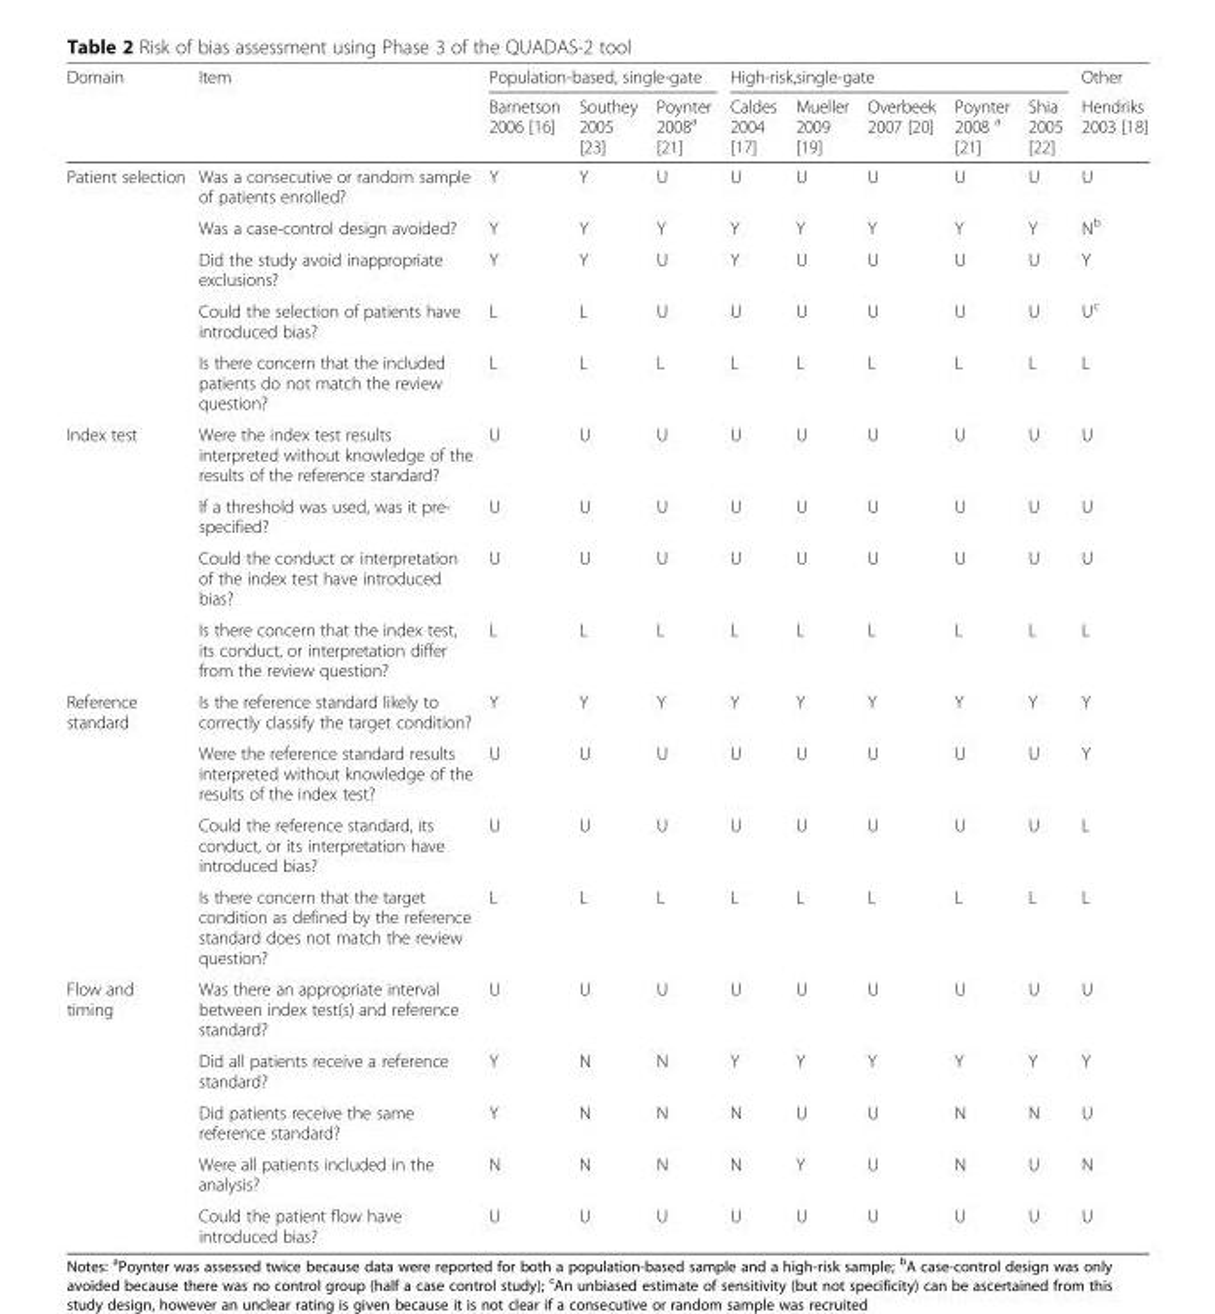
<table><thead><tr><td rowspan="2">Domain</td><td rowspan="2">Item</td><td colspan="3">Population-based, single-gate</td><td colspan="5">High-risk,single-gate</td><td rowspan="2">Other Hendriks 2003 [18]</td></tr><tr><td>Barnetson 2006 [16]</td><td>Southey 2005 [23]</td><td>Poynter 2008<sup>a</sup> [21]</td><td>Caldes 2004 [17]</td><td>Mueller 2009 [19]</td><td>Overbeek 2007 [20]</td><td>Poynter 2008 <sup>a</sup> [21]</td><td>Shia 2005 [22]</td></tr></thead><tbody><tr><td rowspan="5">Patient selection</td><td>Was a consecutive or random sample of patients enrolled?</td><td>Y</td><td>Y</td><td>U</td><td>U</td><td>U</td><td>U</td><td>U</td><td>U</td><td>U</td></tr><tr><td>Was a case-control design avoided?</td><td>Y</td><td>Y</td><td>Y</td><td>Y</td><td>Y</td><td>Y</td><td>Y</td><td>Y</td><td>N<sup>b</sup></td></tr><tr><td>Did the study avoid inappropriate exclusions?</td><td>Y</td><td>Y</td><td>U</td><td>Y</td><td>U</td><td>U</td><td>U</td><td>U</td><td>Y</td></tr><tr><td>Could the selection of patients have introduced bias?</td><td>L</td><td>L</td><td>U</td><td>U</td><td>U</td><td>U</td><td>U</td><td>U</td><td>U<sup>c</sup></td></tr><tr><td>Is there concern that the included patients do not match the review question?</td><td>L</td><td>L</td><td>L</td><td>L</td><td>L</td><td>L</td><td>L</td><td>L</td><td>L</td></tr><tr><td rowspan="4">Index test</td><td>Were the index test results interpreted without knowledge of the results of the reference standard?</td><td>U</td><td>U</td><td>U</td><td>U</td><td>U</td><td>U</td><td>U</td><td>U</td><td>U</td></tr><tr><td>If a threshold was used, was it pre- specified?</td><td>U</td><td>U</td><td>U</td><td>U</td><td>U</td><td>U</td><td>U</td><td>U</td><td>U</td></tr><tr><td>Could the conduct or interpretation of the index test have introduced bias?</td><td>U</td><td>U</td><td>U</td><td>U</td><td>U</td><td>U</td><td>U</td><td>U</td><td>U</td></tr><tr><td>Is there concern that the index test, its conduct, or interpretation differ from the review question?</td><td>L</td><td>L</td><td>L</td><td>L</td><td>L</td><td>L</td><td>L</td><td>L</td><td>L</td></tr><tr><td rowspan="4">Reference standard</td><td>Is the reference standard likely to correctly classify the target condition?</td><td>Y</td><td>Y</td><td>Y</td><td>Y</td><td>Y</td><td>Y</td><td>Y</td><td>Y</td><td>Y</td></tr><tr><td>Were the reference standard results interpreted without knowledge of the results of the index test?</td><td>U</td><td>U</td><td>U</td><td>U</td><td>U</td><td>U</td><td>U</td><td>U</td><td>Y</td></tr><tr><td>Could the reference standard, its conduct, or its interpretation have introduced bias?</td><td>U</td><td>U</td><td>U</td><td>U</td><td>U</td><td>U</td><td>U</td><td>U</td><td>L</td></tr><tr><td>Is there concern that the target condition as defined by the reference standard does not match the review question?</td><td>L</td><td>L</td><td>L</td><td>L</td><td>L</td><td>L</td><td>L</td><td>L</td><td>L</td></tr><tr><td rowspan="5">Flow and timing</td><td>Was there an appropriate interval between index test(s) and reference standard?</td><td>U</td><td>U</td><td>U</td><td>U</td><td>U</td><td>U</td><td>U</td><td>U</td><td>U</td></tr><tr><td>Did all patients receive a reference standard?</td><td>Y</td><td>N</td><td>N</td><td>Y</td><td>Y</td><td>Y</td><td>Y</td><td>Y</td><td>Y</td></tr><tr><td>Did patients receive the same reference standard?</td><td>Y</td><td>N</td><td>N</td><td>N</td><td>U</td><td>U</td><td>N</td><td>N</td><td>U</td></tr><tr><td>Were all patients included in the analysis?</td><td>N</td><td>N</td><td>N</td><td>N</td><td>Y</td><td>U</td><td>N</td><td>U</td><td>N</td></tr><tr><td>Could the patient flow have introduced bias?</td><td>U</td><td>U</td><td>U</td><td>U</td><td>U</td><td>U</td><td>U</td><td>U</td><td>U</td></tr></tbody></table>